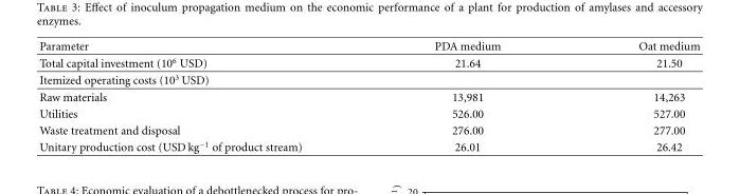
<table><thead><tr><td>Parameter</td><td>PDA medium</td><td>Oat medium</td></tr></thead><tbody><tr><td>Total capital investment (10<sup>6</sup> USD)</td><td>21.64</td><td>21.50</td></tr><tr><td colspan="3">Itemized operating costs (10<sup>3</sup> USD)</td></tr><tr><td>Raw materials</td><td>13,981</td><td>14,263</td></tr><tr><td>Utilities</td><td>526.00</td><td>527.00</td></tr><tr><td>Waste treatment and disposal</td><td>276.00</td><td>277.00</td></tr><tr><td>Unitary production cost (USD kg<sup>−1</sup> of product stream)</td><td>26.01</td><td>26.42</td></tr></tbody></table>